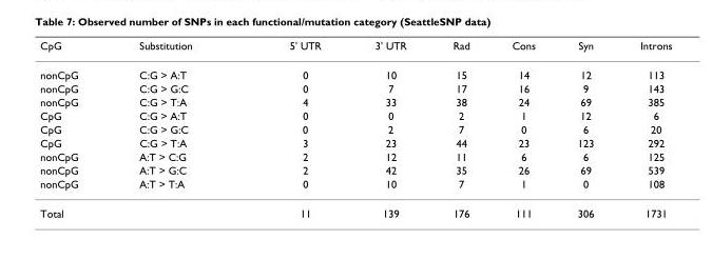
<table><thead><tr><td>CpG</td><td>Substitution</td><td>5&#x27; UTR</td><td>3&#x27; UTR</td><td>Rad</td><td>Cons</td><td>Syn</td><td>Introns</td></tr></thead><tbody><tr><td>nonCpG</td><td>C:G &gt; A:T</td><td>0</td><td>10</td><td>15</td><td>14</td><td>12</td><td>113</td></tr><tr><td>nonCpG</td><td>C:G &gt; G:C</td><td>0</td><td>7</td><td>17</td><td>16</td><td>9</td><td>143</td></tr><tr><td>nonCpG</td><td>C:G &gt; T:A</td><td>4</td><td>33</td><td>38</td><td>24</td><td>69</td><td>385</td></tr><tr><td>CpG</td><td>C:G &gt; A:T</td><td>0</td><td>0</td><td>2</td><td>1</td><td>12</td><td>6</td></tr><tr><td>CpG</td><td>C:G &gt; G:C</td><td>0</td><td>2</td><td>7</td><td>0</td><td>6</td><td>20</td></tr><tr><td>CpG</td><td>C:G &gt; T:A</td><td>3</td><td>23</td><td>44</td><td>23</td><td>123</td><td>292</td></tr><tr><td>nonCpG</td><td>A:T &gt; C:G</td><td>2</td><td>12</td><td>11</td><td>6</td><td>6</td><td>125</td></tr><tr><td>nonCpG</td><td>A:T &gt; G:C</td><td>2</td><td>42</td><td>35</td><td>26</td><td>69</td><td>539</td></tr><tr><td>nonCpG</td><td>A:T &gt; T:A</td><td>0</td><td>10</td><td>7</td><td>1</td><td>0</td><td>108</td></tr><tr><td>Total</td><td></td><td>11</td><td>139</td><td>176</td><td>111</td><td>306</td><td>1731</td></tr></tbody></table>